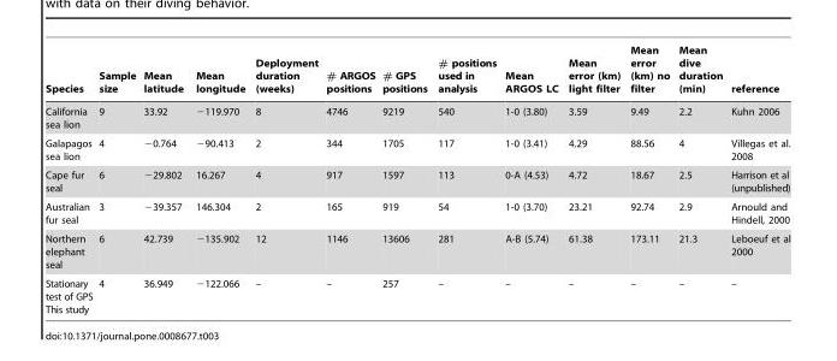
<table><thead><tr><td>Species</td><td>Sample size</td><td>Mean latitude</td><td>Mean longitude</td><td>Deployment duration (weeks)</td><td># ARGOS positions</td><td># GPS positions</td><td># positions used in analysis</td><td>Mean ARGOS LC</td><td>Mean error (km) light filter</td><td>Mean error (km) no filter</td><td>Mean dive duration (min)</td><td>reference</td></tr></thead><tbody><tr><td>California sea lion</td><td>9</td><td>33.92</td><td>−119.970</td><td>8</td><td>4746</td><td>9219</td><td>540</td><td>1-0 (3.80)</td><td>3.59</td><td>9.49</td><td>2.2</td><td>Kuhn 2006</td></tr><tr><td>Galapagos sea lion</td><td>4</td><td>−0.764</td><td>−90.413</td><td>2</td><td>344</td><td>1705</td><td>117</td><td>1-0 (3.41)</td><td>4.29</td><td>88.56</td><td>4</td><td>Villegas et al. 2008</td></tr><tr><td>Cape fur seal</td><td>6</td><td>−29.802</td><td>16.267</td><td>4</td><td>917</td><td>1597</td><td>113</td><td>0-A (4.53)</td><td>4.72</td><td>18.67</td><td>2.5</td><td>Harrison et al (unpublished)</td></tr><tr><td>Australian fur seal</td><td>3</td><td>−39.357</td><td>146.304</td><td>2</td><td>165</td><td>919</td><td>54</td><td>1-0 (3.70)</td><td>23.21</td><td>92.74</td><td>2.9</td><td>Arnould and Hindell, 2000</td></tr><tr><td>Northern elephant seal</td><td>6</td><td>42.739</td><td>−135.902</td><td>12</td><td>1146</td><td>13606</td><td>281</td><td>A-B (5.74)</td><td>61.38</td><td>173.11</td><td>21.3</td><td>Leboeuf et al 2000</td></tr><tr><td>Stationary test of GPS This study</td><td>4</td><td>36.949</td><td>−122.066</td><td>–</td><td>–</td><td>257</td><td>–</td><td>–</td><td>–</td><td>–</td><td>–</td><td>–</td></tr></tbody></table>